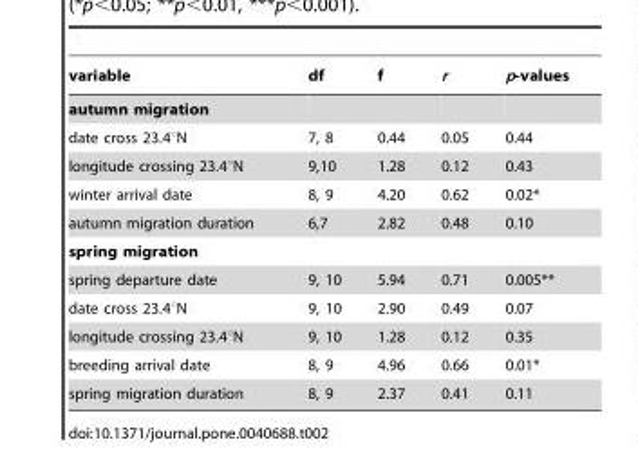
<table><thead><tr><td>variable</td><td>df</td><td>f</td><td>r</td><td>p-values</td></tr></thead><tbody><tr><td colspan="5">autumn migration</td></tr><tr><td>date cross 23.4°N</td><td>7, 8</td><td>0.44</td><td>0.05</td><td>0.44</td></tr><tr><td>longitude crossing 23.4°N</td><td>9,10</td><td>1.28</td><td>0.12</td><td>0.43</td></tr><tr><td>winter arrival date</td><td>8, 9</td><td>4.20</td><td>0.62</td><td>0.02*</td></tr><tr><td>autumn migration duration</td><td>6,7</td><td>2.82</td><td>0.48</td><td>0.10</td></tr><tr><td colspan="5">spring migration</td></tr><tr><td>spring departure date</td><td>9, 10</td><td>5.94</td><td>0.71</td><td>0.005**</td></tr><tr><td>date cross 23.4°N</td><td>9, 10</td><td>2.90</td><td>0.49</td><td>0.07</td></tr><tr><td>longitude crossing 23.4°N</td><td>9, 10</td><td>1.28</td><td>0.12</td><td>0.35</td></tr><tr><td>breeding arrival date</td><td>8, 9</td><td>4.96</td><td>0.66</td><td>0.01*</td></tr><tr><td>spring migration duration</td><td>8, 9</td><td>2.37</td><td>0.41</td><td>0.11</td></tr></tbody></table>